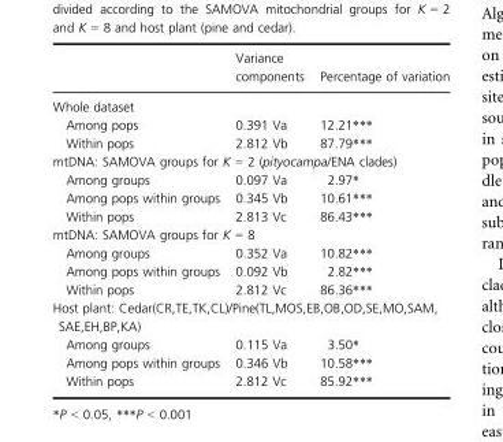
<table><thead><tr><td></td><td>Variance components</td><td>Percentage of variation</td></tr></thead><tbody><tr><td colspan="3">Whole dataset</td></tr><tr><td>Among pops</td><td>0.391 Va</td><td>12.21***</td></tr><tr><td>Within pops</td><td>2.812 Vb</td><td>87.79***</td></tr><tr><td colspan="3">mtDNA: SAMOVA groups for K = 2 (pityocampa/ENA clades)</td></tr><tr><td>Among groups</td><td>0.097 Va</td><td>2.97*</td></tr><tr><td>Among pops within groups</td><td>0.345 Vb</td><td>10.61***</td></tr><tr><td>Within pops</td><td>2.813 Vc</td><td>86.43***</td></tr><tr><td colspan="3">mtDNA: SAMOVA groups for K = 8</td></tr><tr><td>Among groups</td><td>0.352 Va</td><td>10.82***</td></tr><tr><td>Among pops within groups</td><td>0.092 Vb</td><td>2.82***</td></tr><tr><td>Within pops</td><td>2.812 Vc</td><td>86.36***</td></tr><tr><td colspan="3">Host plant: Cedar(CR,TE,TK,CL)/Pine(TL,MOS,EB,OB,OD,SE,MO,SAM, SAE,EH,BP,KA)</td></tr><tr><td>Among groups</td><td>0.115 Va</td><td>3.50*</td></tr><tr><td>Among pops within groups</td><td>0.346 Vb</td><td>10.58***</td></tr><tr><td>Within pops</td><td>2.812 Vc</td><td>85.92***</td></tr></tbody></table>